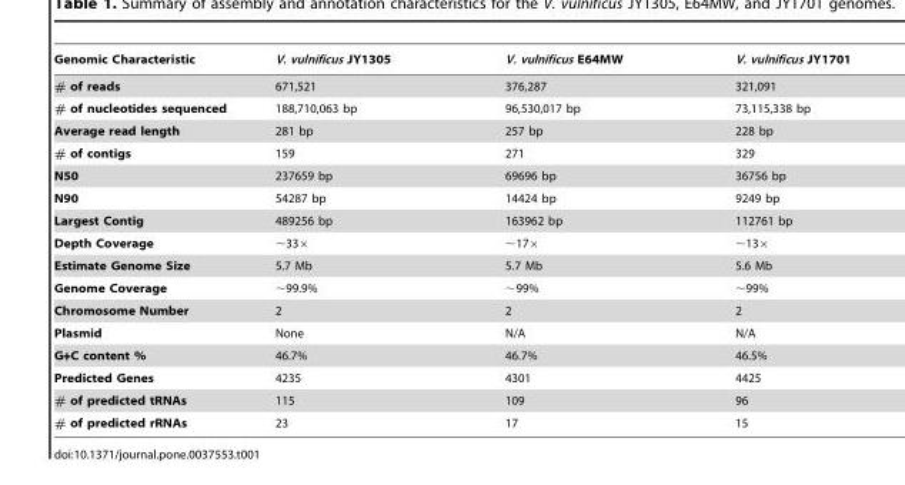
<table><thead><tr><td>Genomic Characteristic</td><td>V. vulnificus JY1305</td><td>V. vulnificus E64MW</td><td>V. vulnificus JY1701</td></tr></thead><tbody><tr><td># of reads</td><td>671,521</td><td>376,287</td><td>321,091</td></tr><tr><td># of nucleotides sequenced</td><td>188,710,063 bp</td><td>96,530,017 bp</td><td>73,115,338 bp</td></tr><tr><td>Average read length</td><td>281 bp</td><td>257 bp</td><td>228 bp</td></tr><tr><td># of contigs</td><td>159</td><td>271</td><td>329</td></tr><tr><td>N50</td><td>237659 bp</td><td>69696 bp</td><td>36756 bp</td></tr><tr><td>N90</td><td>54287 bp</td><td>14424 bp</td><td>9249 bp</td></tr><tr><td>Largest Contig</td><td>489256 bp</td><td>163962 bp</td><td>112761 bp</td></tr><tr><td>Depth Coverage</td><td>∼33×</td><td>∼17×</td><td>∼13×</td></tr><tr><td>Estimate Genome Size</td><td>5.7 Mb</td><td>5.7 Mb</td><td>5.6 Mb</td></tr><tr><td>Genome Coverage</td><td>∼99.9%</td><td>∼99%</td><td>∼99%</td></tr><tr><td>Chromosome Number</td><td>2</td><td>2</td><td>2</td></tr><tr><td>Plasmid</td><td>None</td><td>N/A</td><td>N/A</td></tr><tr><td>G+C content %</td><td>46.7%</td><td>46.7%</td><td>46.5%</td></tr><tr><td>Predicted Genes</td><td>4235</td><td>4301</td><td>4425</td></tr><tr><td># of predicted tRNAs</td><td>115</td><td>109</td><td>96</td></tr><tr><td># of predicted rRNAs</td><td>23</td><td>17</td><td>15</td></tr></tbody></table>